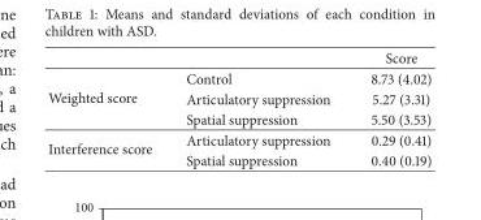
<table><thead><tr><td></td><td></td><td>Score</td></tr></thead><tbody><tr><td rowspan="3">Weighted score</td><td>Control</td><td>8.73 (4.02)</td></tr><tr><td>Articulatory suppression</td><td>5.27 (3.31)</td></tr><tr><td>Spatial suppression</td><td>5.50 (3.53)</td></tr><tr><td rowspan="2">Interference score</td><td>Articulatory suppression</td><td>0.29 (0.41)</td></tr><tr><td>Spatial suppression</td><td>0.40 (0.19)</td></tr></tbody></table>